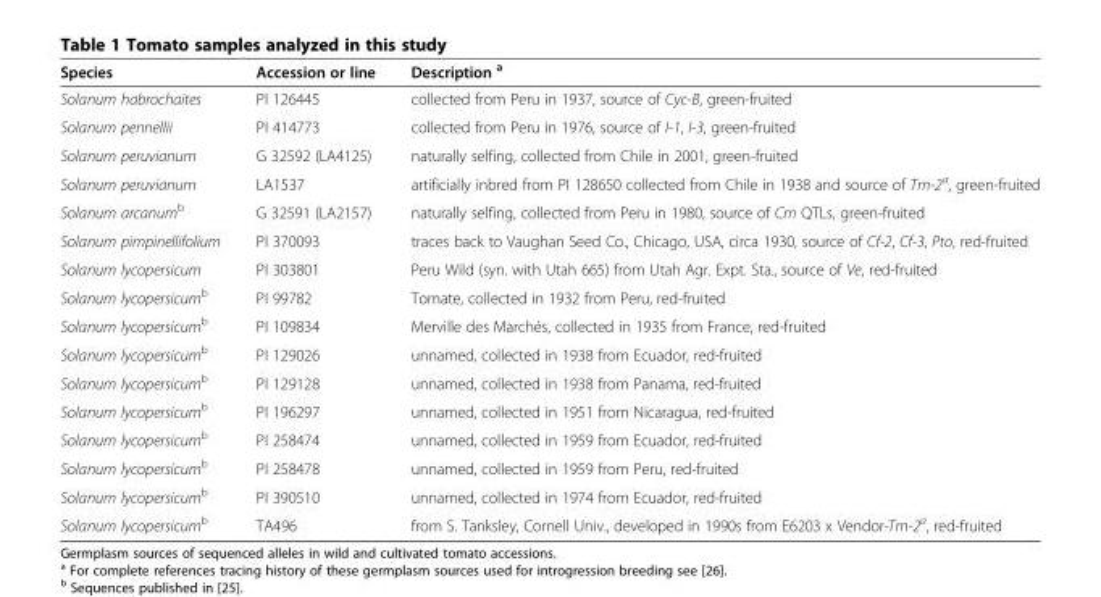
<table><thead><tr><td>Species</td><td>Accession or line</td><td>Description <sup>a</sup></td></tr></thead><tbody><tr><td>Solanum habrochaites</td><td>PI 126445</td><td>collected from Peru in 1937, source of Cyc-B, green-fruited</td></tr><tr><td>Solanum pennellii</td><td>PI 414773</td><td>collected from Peru in 1976, source of I-1, I-3, green-fruited</td></tr><tr><td>Solanum peruvianum</td><td>G 32592 (LA4125)</td><td>naturally selfing, collected from Chile in 2001, green-fruited</td></tr><tr><td>Solanum peruvianum</td><td>LA1537</td><td>artificially inbred from PI 128650 collected from Chile in 1938 and source of Tm-2<sup>a</sup>, green-fruited</td></tr><tr><td>Solanum arcanum<sup>b</sup></td><td>G 32591 (LA2157)</td><td>naturally selfing, collected from Peru in 1980, source of Cm QTLs, green-fruited</td></tr><tr><td>Solanum pimpinellifolium</td><td>PI 370093</td><td>traces back to Vaughan Seed Co., Chicago, USA, circa 1930, source of Cf-2, Cf-3, Pto, red-fruited</td></tr><tr><td>Solanum lycopersicum</td><td>PI 303801</td><td>Peru Wild (syn. with Utah 665) from Utah Agr. Expt. Sta., source of Ve, red-fruited</td></tr><tr><td>Solanum lycopersicum<sup>b</sup></td><td>PI 99782</td><td>Tomate, collected in 1932 from Peru, red-fruited</td></tr><tr><td>Solanum lycopersicum<sup>b</sup></td><td>PI 109834</td><td>Merville des Marchés, collected in 1935 from France, red-fruited</td></tr><tr><td>Solanum lycopersicum<sup>b</sup></td><td>PI 129026</td><td>unnamed, collected in 1938 from Ecuador, red-fruited</td></tr><tr><td>Solanum lycopersicum<sup>b</sup></td><td>PI 129128</td><td>unnamed, collected in 1938 from Panama, red-fruited</td></tr><tr><td>Solanum lycopersicum<sup>b</sup></td><td>PI 196297</td><td>unnamed, collected in 1951 from Nicaragua, red-fruited</td></tr><tr><td>Solanum lycopersicum<sup>b</sup></td><td>PI 258474</td><td>unnamed, collected in 1959 from Ecuador, red-fruited</td></tr><tr><td>Solanum lycopersicum<sup>b</sup></td><td>PI 258478</td><td>unnamed, collected in 1959 from Peru, red-fruited</td></tr><tr><td>Solanum lycopersicum<sup>b</sup></td><td>PI 390510</td><td>unnamed, collected in 1974 from Ecuador, red-fruited</td></tr><tr><td>Solanum lycopersicum<sup>b</sup></td><td>TA496</td><td>from S. Tanksley, Cornell Univ., developed in 1990s from E6203 x Vendor-Tm-2<sup>a</sup>, red-fruited</td></tr></tbody></table>